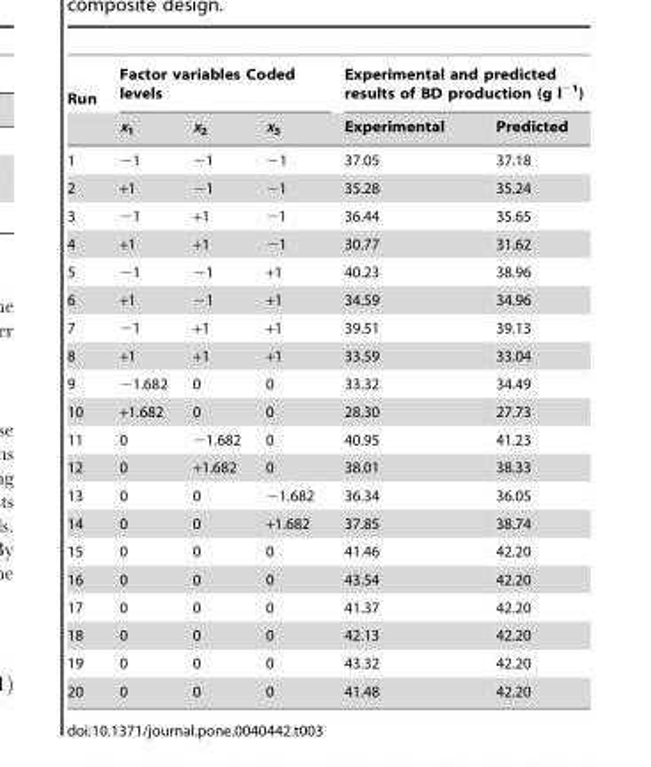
<table><thead><tr><td rowspan="2">Run</td><td colspan="3">Factor variables Coded levels</td><td colspan="2">Experimental and predicted results of BD production (g l<sup>−1</sup>)</td></tr><tr><td>x<sub>1</sub></td><td>x<sub>2</sub></td><td>x<sub>3</sub></td><td>Experimental</td><td>Predicted</td></tr></thead><tbody><tr><td>1</td><td>−1</td><td>−1</td><td>−1</td><td>37.05</td><td>37.18</td></tr><tr><td>2</td><td>+1</td><td>−1</td><td>−1</td><td>35.28</td><td>35.24</td></tr><tr><td>3</td><td>−1</td><td>+1</td><td>−1</td><td>36.44</td><td>35.65</td></tr><tr><td>4</td><td>+1</td><td>+1</td><td>−1</td><td>30.77</td><td>31.62</td></tr><tr><td>5</td><td>−1</td><td>−1</td><td>+1</td><td>40.23</td><td>38.96</td></tr><tr><td>6</td><td>+1</td><td>−1</td><td>+1</td><td>34.59</td><td>34.96</td></tr><tr><td>7</td><td>−1</td><td>+1</td><td>+1</td><td>39.51</td><td>39.13</td></tr><tr><td>8</td><td>+1</td><td>+1</td><td>+1</td><td>33.59</td><td>33.04</td></tr><tr><td>9</td><td>−1.682</td><td>0</td><td>0</td><td>33.32</td><td>34.49</td></tr><tr><td>10</td><td>+1.682</td><td>0</td><td>0</td><td>28.30</td><td>27.73</td></tr><tr><td>11</td><td>0</td><td>−1.682</td><td>0</td><td>40.95</td><td>41.23</td></tr><tr><td>12</td><td>0</td><td>+1.682</td><td>0</td><td>38.01</td><td>38.33</td></tr><tr><td>13</td><td>0</td><td>0</td><td>−1.682</td><td>36.34</td><td>36.05</td></tr><tr><td>14</td><td>0</td><td>0</td><td>+1.682</td><td>37.85</td><td>38.74</td></tr><tr><td>15</td><td>0</td><td>0</td><td>0</td><td>41.46</td><td>42.20</td></tr><tr><td>16</td><td>0</td><td>0</td><td>0</td><td>43.54</td><td>42.20</td></tr><tr><td>17</td><td>0</td><td>0</td><td>0</td><td>41.37</td><td>42.20</td></tr><tr><td>18</td><td>0</td><td>0</td><td>0</td><td>42.13</td><td>42.20</td></tr><tr><td>19</td><td>0</td><td>0</td><td>0</td><td>43.32</td><td>42.20</td></tr><tr><td>20</td><td>0</td><td>0</td><td>0</td><td>41.48</td><td>42.20</td></tr></tbody></table>